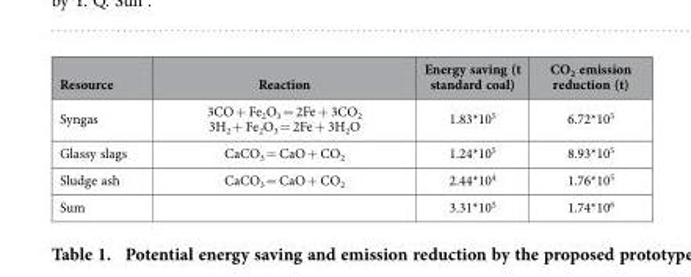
<table><thead><tr><td>Resource</td><td>Reaction</td><td>Energy saving (t standard coal)</td><td>CO<sub>2</sub> emission reduction (t)</td></tr></thead><tbody><tr><td>Syngas</td><td>3CO + Fe<sub>2</sub>O<sub>3</sub> = 2Fe + 3CO<sub>2</sub> 3H<sub>2</sub> + Fe<sub>2</sub>O<sub>3</sub> = 2Fe + 3H<sub>2</sub>O</td><td>1.83*10<sup>5</sup></td><td>6.72*10<sup>5</sup></td></tr><tr><td>Glassy slags</td><td>CaCO<sub>3</sub> = CaO + CO<sub>2</sub></td><td>1.24*10<sup>5</sup></td><td>8.93*10<sup>5</sup></td></tr><tr><td>Sludge ash</td><td>CaCO<sub>3</sub> = CaO + CO<sub>2</sub></td><td>2.44*10<sup>4</sup></td><td>1.76*10<sup>5</sup></td></tr><tr><td>Sum</td><td></td><td>3.31*10<sup>5</sup></td><td>1.74*10<sup>6</sup></td></tr></tbody></table>